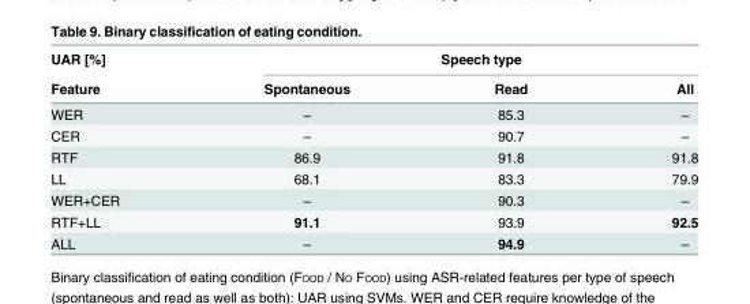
<table><thead><tr><td rowspan="2">UAR [%] Feature</td><td colspan="3">Speech type</td></tr><tr><td>Spontaneous</td><td>Read</td><td>All</td></tr></thead><tbody><tr><td>WER</td><td>–</td><td>85.3</td><td>–</td></tr><tr><td>CER</td><td>–</td><td>90.7</td><td>–</td></tr><tr><td>RTF</td><td>86.9</td><td>91.8</td><td>91.8</td></tr><tr><td>LL</td><td>68.1</td><td>83.3</td><td>79.9</td></tr><tr><td>WER+CER</td><td>–</td><td>90.3</td><td>–</td></tr><tr><td>RTF+LL</td><td>91.1</td><td>93.9</td><td>92.5</td></tr><tr><td>ALL</td><td>–</td><td>94.9</td><td>–</td></tr></tbody></table>